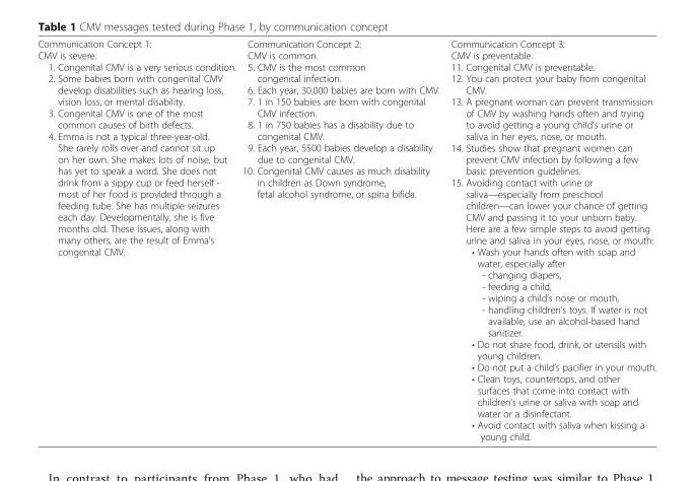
<table><tbody><tr><td>Communication Concept 1: CMV is severe. 1. Congenital CMV is a very serious condition. 2. Some babies born with congenital CMV develop disabilities such as hearing loss, vision loss, or mental disability. 3. Congenital CMV is one of the most common causes of birth defects. 4. Emma is not a typical three-year-old. She rarely rolls over and cannot sit up on her own. She makes lots of noise, but has yet to speak a word. She does not drink from a sippy cup or feed herself - most of her food is provided through a feeding tube. She has multiple seizures each day. Developmentally, she is five months old. These issues, along with many others, are the result of Emma’s congenital CMV.</td><td>Communication Concept 2: CMV is common. 5. CMV is the most common congenital infection. 6. Each year, 30,000 babies are born with CMV. 7. 1 in 150 babies are born with congenital CMV infection. 8. 1 in 750 babies has a disability due to congenital CMV. 9. Each year, 5500 babies develop a disability due to congenital CMV. 10. Congenital CMV causes as much disability in children as Down syndrome, fetal alcohol syndrome, or spina bifida.</td><td>Communication Concept 3: CMV is preventable. 11. Congenital CMV is preventable. 12. You can protect your baby from congenital CMV. 13. A pregnant woman can prevent transmission of CMV by washing hands often and trying to avoid getting a young child’s urine or saliva in her eyes, nose, or mouth. 14. Studies show that pregnant women can prevent CMV infection by following a few basic prevention guidelines. 15. Avoiding contact with urine or saliva—especially from preschool children—can lower your chance of getting CMV and passing it to your unborn baby. Here are a few simple steps to avoid getting urine and saliva in your eyes, nose, or mouth: • Wash your hands often with soap and water, especially after - changing diapers, - feeding a child, - wiping a child’s nose or mouth, - handling children’s toys. If water is not available, use an alcohol-based hand sanitizer. • Do not share food, drink, or utensils with young children. • Do not put a child’s pacifier in your mouth. • Clean toys, countertops, and other surfaces that come into contact with children’s urine or saliva with soap and water or a disinfectant. • Avoid contact with saliva when kissing a young child.</td></tr></tbody></table>